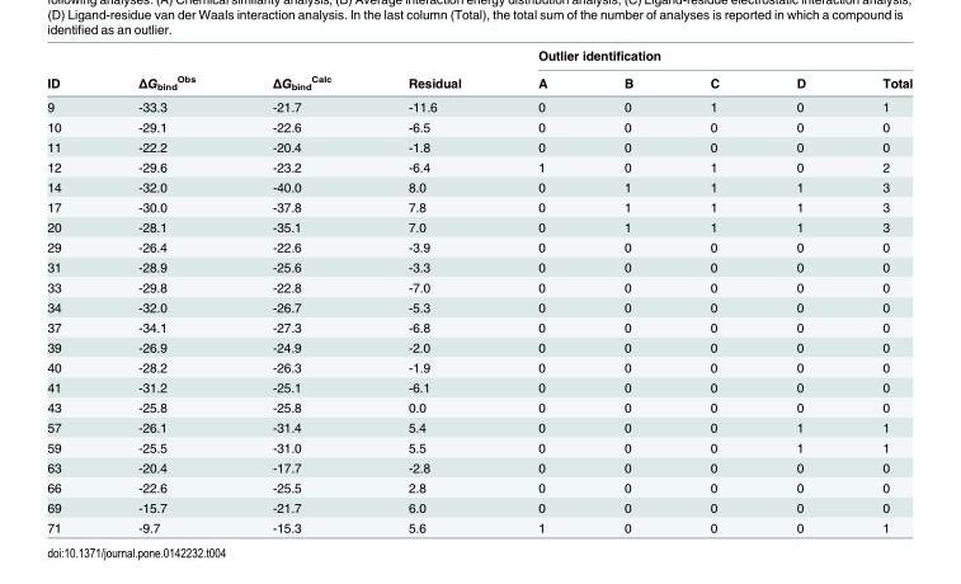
<table><thead><tr><td rowspan="2">ID</td><td rowspan="2">ΔG<sub>bind</sub> <sup>Obs</sup></td><td rowspan="2">ΔG<sub>bind</sub> <sup>Calc</sup></td><td rowspan="2">Residual</td><td colspan="5">Outlier identification</td></tr><tr><td>A</td><td>B</td><td>C</td><td>D</td><td>Total</td></tr></thead><tbody><tr><td>9</td><td>-33.3</td><td>-21.7</td><td>-11.6</td><td>0</td><td>0</td><td>1</td><td>0</td><td>1</td></tr><tr><td>10</td><td>-29.1</td><td>-22.6</td><td>-6.5</td><td>0</td><td>0</td><td>0</td><td>0</td><td>0</td></tr><tr><td>11</td><td>-22.2</td><td>-20.4</td><td>-1.8</td><td>0</td><td>0</td><td>0</td><td>0</td><td>0</td></tr><tr><td>12</td><td>-29.6</td><td>-23.2</td><td>-6.4</td><td>1</td><td>0</td><td>1</td><td>0</td><td>2</td></tr><tr><td>14</td><td>-32.0</td><td>-40.0</td><td>8.0</td><td>0</td><td>1</td><td>1</td><td>1</td><td>3</td></tr><tr><td>17</td><td>-30.0</td><td>-37.8</td><td>7.8</td><td>0</td><td>1</td><td>1</td><td>1</td><td>3</td></tr><tr><td>20</td><td>-28.1</td><td>-35.1</td><td>7.0</td><td>0</td><td>1</td><td>1</td><td>1</td><td>3</td></tr><tr><td>29</td><td>-26.4</td><td>-22.6</td><td>-3.9</td><td>0</td><td>0</td><td>0</td><td>0</td><td>0</td></tr><tr><td>31</td><td>-28.9</td><td>-25.6</td><td>-3.3</td><td>0</td><td>0</td><td>0</td><td>0</td><td>0</td></tr><tr><td>33</td><td>-29.8</td><td>-22.8</td><td>-7.0</td><td>0</td><td>0</td><td>0</td><td>0</td><td>0</td></tr><tr><td>34</td><td>-32.0</td><td>-26.7</td><td>-5.3</td><td>0</td><td>0</td><td>0</td><td>0</td><td>0</td></tr><tr><td>37</td><td>-34.1</td><td>-27.3</td><td>-6.8</td><td>0</td><td>0</td><td>0</td><td>0</td><td>0</td></tr><tr><td>39</td><td>-26.9</td><td>-24.9</td><td>-2.0</td><td>0</td><td>0</td><td>0</td><td>0</td><td>0</td></tr><tr><td>40</td><td>-28.2</td><td>-26.3</td><td>-1.9</td><td>0</td><td>0</td><td>0</td><td>0</td><td>0</td></tr><tr><td>41</td><td>-31.2</td><td>-25.1</td><td>-6.1</td><td>0</td><td>0</td><td>0</td><td>0</td><td>0</td></tr><tr><td>43</td><td>-25.8</td><td>-25.8</td><td>0.0</td><td>0</td><td>0</td><td>0</td><td>0</td><td>0</td></tr><tr><td>57</td><td>-26.1</td><td>-31.4</td><td>5.4</td><td>0</td><td>0</td><td>0</td><td>1</td><td>1</td></tr><tr><td>59</td><td>-25.5</td><td>-31.0</td><td>5.5</td><td>0</td><td>0</td><td>0</td><td>1</td><td>1</td></tr><tr><td>63</td><td>-20.4</td><td>-17.7</td><td>-2.8</td><td>0</td><td>0</td><td>0</td><td>0</td><td>0</td></tr><tr><td>66</td><td>-22.6</td><td>-25.5</td><td>2.8</td><td>0</td><td>0</td><td>0</td><td>0</td><td>0</td></tr><tr><td>69</td><td>-15.7</td><td>-21.7</td><td>6.0</td><td>0</td><td>0</td><td>0</td><td>0</td><td>0</td></tr><tr><td>71</td><td>-9.7</td><td>-15.3</td><td>5.6</td><td>1</td><td>0</td><td>0</td><td>0</td><td>1</td></tr></tbody></table>